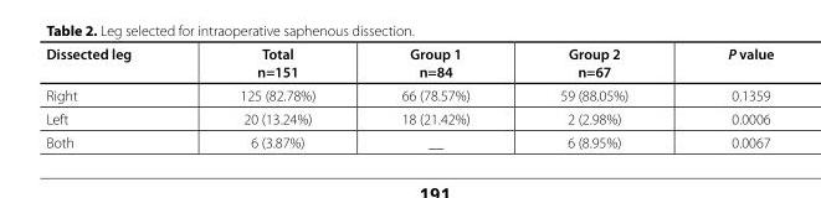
<table><thead><tr><td>Dissected leg</td><td>Total n=151</td><td>Group 1 n=84</td><td>Group 2 n=67</td><td>P value</td></tr></thead><tbody><tr><td>Right</td><td>125 (82.78%)</td><td>66 (78.57%)</td><td>59 (88.05%)</td><td>0.1359</td></tr><tr><td>Left</td><td>20 (13.24%)</td><td>18 (21.42%)</td><td>2 (2.98%)</td><td>0.0006</td></tr><tr><td>Both</td><td>6 (3.87%)</td><td>__</td><td>6 (8.95%)</td><td>0.0067</td></tr></tbody></table>